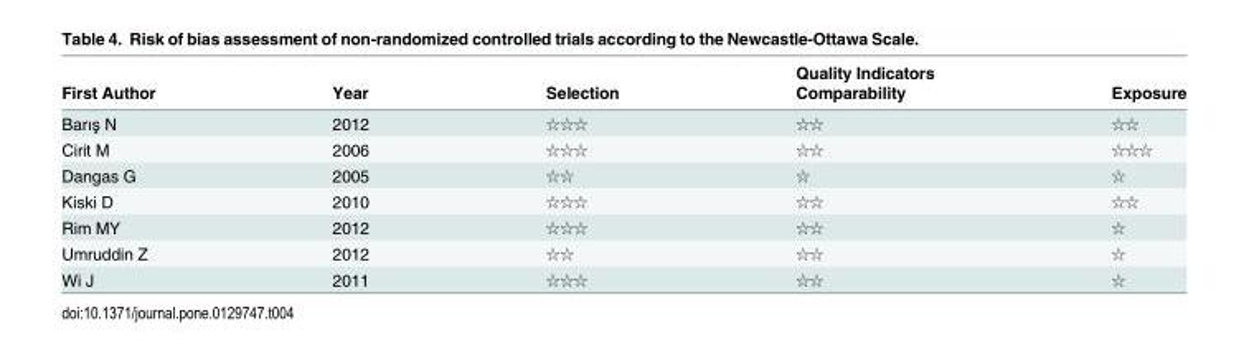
<table><thead><tr><td rowspan="2">First Author</td><td rowspan="2">Year</td><td rowspan="2">Selection</td><td rowspan="2">Quality Indicators Comparability</td><td rowspan="2">Exposure</td></tr><tr></tr></thead><tbody><tr><td>Barış N</td><td>2012</td><td>☆☆☆</td><td>☆☆</td><td>☆☆</td></tr><tr><td>Cirit M</td><td>2006</td><td>☆☆☆</td><td>☆☆</td><td>☆☆☆</td></tr><tr><td>Dangas G</td><td>2005</td><td>☆☆</td><td>☆</td><td>☆</td></tr><tr><td>Kiski D</td><td>2010</td><td>☆☆☆</td><td>☆☆</td><td>☆☆</td></tr><tr><td>Rim MY</td><td>2012</td><td>☆☆☆</td><td>☆☆</td><td>☆</td></tr><tr><td>Umruddin Z</td><td>2012</td><td>☆☆</td><td>☆☆</td><td>☆</td></tr><tr><td>Wi J</td><td>2011</td><td>☆☆☆</td><td>☆☆</td><td>☆</td></tr></tbody></table>